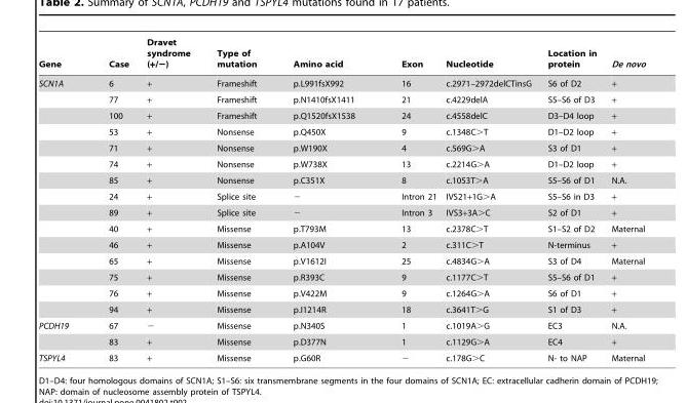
<table><thead><tr><td>Gene</td><td>Case</td><td>Dravet syndrome (+/−)</td><td>Type of mutation</td><td>Amino acid</td><td>Exon</td><td>Nucleotide</td><td>Location in protein</td><td>De novo</td></tr></thead><tbody><tr><td rowspan="15">SCN1A</td><td>6</td><td>+</td><td>Frameshift</td><td>p.L991fsX992</td><td>16</td><td>c.2971–2972delCTinsG</td><td>S6 of D2</td><td>+</td></tr><tr><td>77</td><td>+</td><td>Frameshift</td><td>p.N1410fsX1411</td><td>21</td><td>c.4229delA</td><td>S5–S6 of D3</td><td>+</td></tr><tr><td>100</td><td>+</td><td>Frameshift</td><td>p.Q1520fsX1538</td><td>24</td><td>c.4558delC</td><td>D3–D4 loop</td><td>+</td></tr><tr><td>53</td><td>+</td><td>Nonsense</td><td>p.Q450X</td><td>9</td><td>c.1348C&gt;T</td><td>D1–D2 loop</td><td>+</td></tr><tr><td>71</td><td>+</td><td>Nonsense</td><td>p.W190X</td><td>4</td><td>c.569G&gt;A</td><td>S3 of D1</td><td>+</td></tr><tr><td>74</td><td>+</td><td>Nonsense</td><td>p.W738X</td><td>13</td><td>c.2214G&gt;A</td><td>D1–D2 loop</td><td>+</td></tr><tr><td>85</td><td>+</td><td>Nonsense</td><td>p.C351X</td><td>8</td><td>c.1053T&gt;A</td><td>S5–S6 of D1</td><td>N.A.</td></tr><tr><td>24</td><td>+</td><td>Splice site</td><td>−</td><td>Intron 21</td><td>IVS21+1G&gt;A</td><td>S5–S6 in D3</td><td>+</td></tr><tr><td>89</td><td>+</td><td>Splice site</td><td>−</td><td>Intron 3</td><td>IVS3+3A&gt;C</td><td>S2 of D1</td><td>+</td></tr><tr><td>40</td><td>+</td><td>Missense</td><td>p.T793M</td><td>13</td><td>c.2378C&gt;T</td><td>S1–S2 of D2</td><td>Maternal</td></tr><tr><td>46</td><td>+</td><td>Missense</td><td>p.A104V</td><td>2</td><td>c.311C&gt;T</td><td>N-terminus</td><td>+</td></tr><tr><td>65</td><td>+</td><td>Missense</td><td>p.V1612I</td><td>25</td><td>c.4834G&gt;A</td><td>S3 of D4</td><td>Maternal</td></tr><tr><td>75</td><td>+</td><td>Missense</td><td>p.R393C</td><td>9</td><td>c.1177C&gt;T</td><td>S5–S6 of D1</td><td>+</td></tr><tr><td>76</td><td>+</td><td>Missense</td><td>p.V422M</td><td>9</td><td>c.1264G&gt;A</td><td>S6 of D1</td><td>+</td></tr><tr><td>94</td><td>+</td><td>Missense</td><td>p.I1214R</td><td>18</td><td>c.3641T&gt;G</td><td>S1 of D3</td><td>+</td></tr><tr><td rowspan="2">PCDH19</td><td>67</td><td>−</td><td>Missense</td><td>p.N340S</td><td>1</td><td>c.1019A&gt;G</td><td>EC3</td><td>N.A.</td></tr><tr><td>83</td><td>+</td><td>Missense</td><td>p.D377N</td><td>1</td><td>c.1129G&gt;A</td><td>EC4</td><td>+</td></tr><tr><td>TSPYL4</td><td>83</td><td>+</td><td>Missense</td><td>p.G60R</td><td>−</td><td>c.178G&gt;C</td><td>N- to NAP</td><td>Maternal</td></tr></tbody></table>